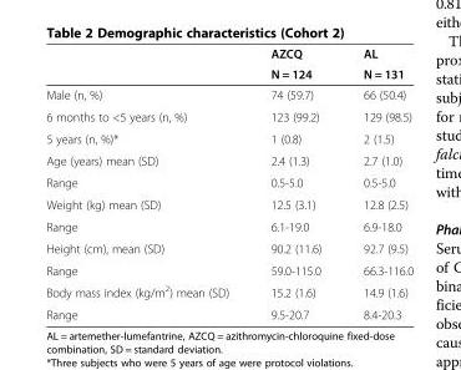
<table><thead><tr><td rowspan="2"></td><td rowspan="2">AZCQ N = 124</td><td rowspan="2">AL N = 131</td></tr><tr></tr></thead><tbody><tr><td>Male (n, %)</td><td>74 (59.7)</td><td>66 (50.4)</td></tr><tr><td>6 months to &lt;5 years (n, %)</td><td>123 (99.2)</td><td>129 (98.5)</td></tr><tr><td>5 years (n, %)*</td><td>1 (0.8)</td><td>2 (1.5)</td></tr><tr><td>Age (years) mean (SD)</td><td>2.4 (1.3)</td><td>2.7 (1.0)</td></tr><tr><td>Range</td><td>0.5-5.0</td><td>0.5-5.0</td></tr><tr><td>Weight (kg) mean (SD)</td><td>12.5 (3.1)</td><td>12.8 (2.5)</td></tr><tr><td>Range</td><td>6.1-19.0</td><td>6.9-18.0</td></tr><tr><td>Height (cm), mean (SD)</td><td>90.2 (11.6)</td><td>92.7 (9.5)</td></tr><tr><td>Range</td><td>59.0-115.0</td><td>66.3-116.0</td></tr><tr><td>Body mass index (kg/m<sup>2</sup>) mean (SD)</td><td>15.2 (1.6)</td><td>14.9 (1.6)</td></tr><tr><td>Range</td><td>9.5-20.7</td><td>8.4-20.3</td></tr></tbody></table>